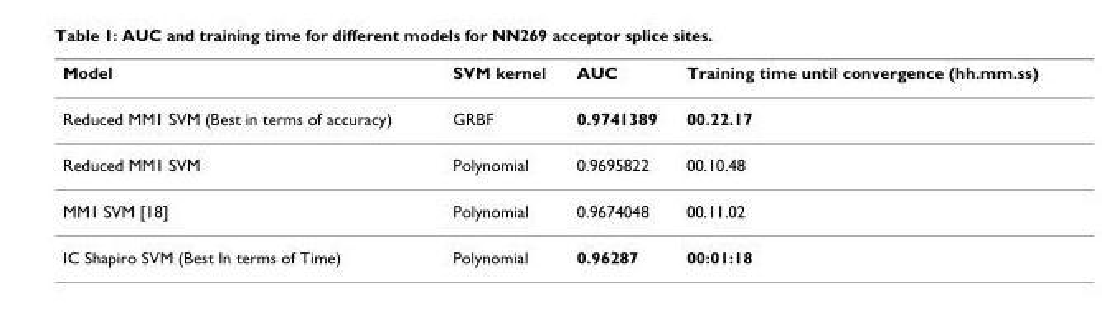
<table><thead><tr><td>Model</td><td>SVM kernel</td><td>AUC</td><td>Training time until convergence (hh.mm.ss)</td></tr></thead><tbody><tr><td>Reduced MM1 SVM (Best in terms of accuracy)</td><td>GRBF</td><td>0.9741389</td><td>00.22.17</td></tr><tr><td>Reduced MM1 SVM</td><td>Polynomial</td><td>0.9695822</td><td>00.10.48</td></tr><tr><td>MM1 SVM [18]</td><td>Polynomial</td><td>0.9674048</td><td>00.11.02</td></tr><tr><td>IC Shapiro SVM (Best In terms of Time)</td><td>Polynomial</td><td>0.96287</td><td>00:01:18</td></tr></tbody></table>